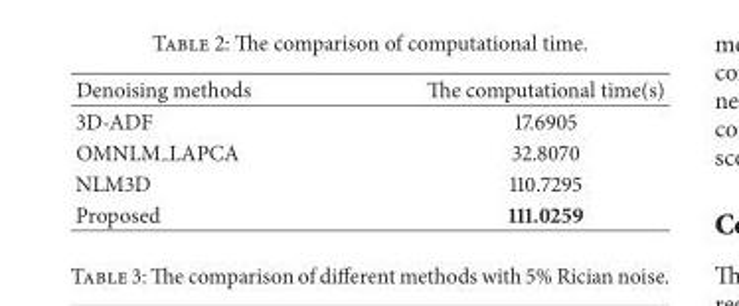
<table><thead><tr><td>Denoising methods</td><td>The computational time(s)</td></tr></thead><tbody><tr><td>3D-ADF</td><td>17.6905</td></tr><tr><td>OMNLM LAPCA</td><td>32.8070</td></tr><tr><td>NLM3D</td><td>110.7295</td></tr><tr><td>Proposed</td><td>111.0259</td></tr></tbody></table>